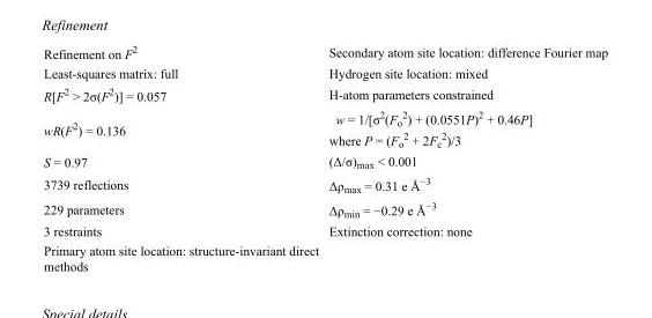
<table><tbody><tr><td>Refinement on F<sup>2</sup></td><td>Secondary atom site location: difference Fourier map</td></tr><tr><td>Least-squares matrix: full</td><td>Hydrogen site location: mixed</td></tr><tr><td>R[F<sup>2</sup> &gt; 2σ(F<sup>2</sup>)] = 0.057</td><td>H-atom parameters constrained</td></tr><tr><td>wR(F<sup>2</sup>) = 0.136</td><td>w = 1/[σ<sup>2</sup>(F<sub>o</sub> <sup>2</sup>) + (0.0551P)<sup>2</sup> + 0.46P] where P = (F<sub>o</sub> <sup>2</sup> + 2F<sub>c</sub> <sup>2</sup>)/3</td></tr><tr><td>S = 0.97</td><td>(Δ/σ)<sub>max</sub> &lt; 0.001</td></tr><tr><td>3739 reflections</td><td>Δρ<sub>max</sub> = 0.31 e Å<sup>−3</sup></td></tr><tr><td>229 parameters</td><td>Δρ<sub>min</sub> = −0.29 e Å<sup>−3</sup></td></tr><tr><td>3 restraints</td><td>Extinction correction: none</td></tr><tr><td>Primary atom site location: structure-invariant direct methods</td><td></td></tr></tbody></table>